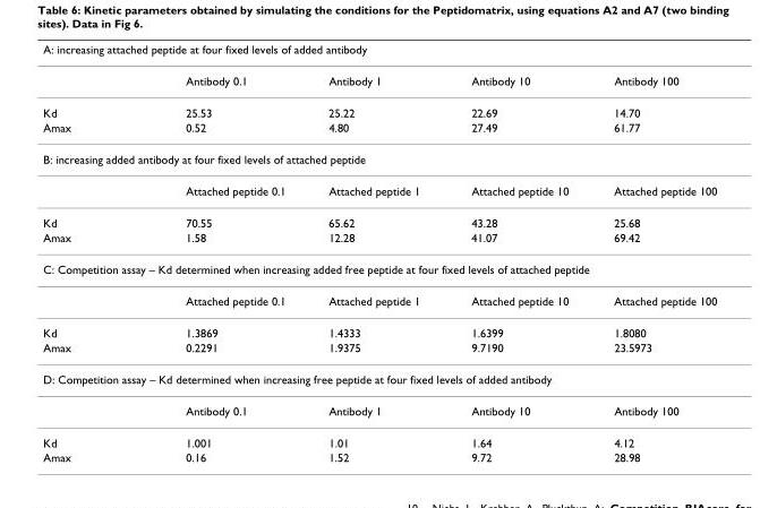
<table><thead><tr><td colspan="5">A: increasing attached peptide at four fixed levels of added antibody</td></tr><tr><td></td><td>Antibody 0.1</td><td>Antibody 1</td><td>Antibody 10</td><td>Antibody 100</td></tr></thead><tbody><tr><td>Kd</td><td>25.53</td><td>25.22</td><td>22.69</td><td>14.70</td></tr><tr><td>Amax</td><td>0.52</td><td>4.80</td><td>27.49</td><td>61.77</td></tr><tr><td colspan="5">B: increasing added antibody at four fixed levels of attached peptide</td></tr><tr><td></td><td>Attached peptide 0.1</td><td>Attached peptide 1</td><td>Attached peptide 10</td><td>Attached peptide 100</td></tr><tr><td>Kd</td><td>70.55</td><td>65.62</td><td>43.28</td><td>25.68</td></tr><tr><td>Amax</td><td>1.58</td><td>12.28</td><td>41.07</td><td>69.42</td></tr><tr><td colspan="5">C: Competition assay – Kd determined when increasing added free peptide at four fixed levels of attached peptide</td></tr><tr><td></td><td>Attached peptide 0.1</td><td>Attached peptide 1</td><td>Attached peptide 10</td><td>Attached peptide 100</td></tr><tr><td>Kd</td><td>1.3869</td><td>1.4333</td><td>1.6399</td><td>1.8080</td></tr><tr><td>Amax</td><td>0.2291</td><td>1.9375</td><td>9.7190</td><td>23.5973</td></tr><tr><td colspan="5">D: Competition assay – Kd determined when increasing free peptide at four fixed levels of added antibody</td></tr><tr><td></td><td>Antibody 0.1</td><td>Antibody 1</td><td>Antibody 10</td><td>Antibody 100</td></tr><tr><td>Kd</td><td>1.001</td><td>1.01</td><td>1.64</td><td>4.12</td></tr><tr><td>Amax</td><td>0.16</td><td>1.52</td><td>9.72</td><td>28.98</td></tr></tbody></table>